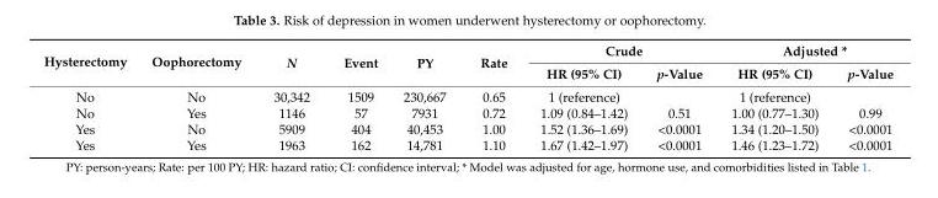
<table><thead><tr><td rowspan="2">Hysterectomy</td><td rowspan="2">Oophorectomy</td><td rowspan="2">N</td><td rowspan="2">Event</td><td rowspan="2">PY</td><td rowspan="2">Rate</td><td colspan="2">Crude</td><td colspan="2">Adjusted *</td></tr><tr><td>HR (95% CI)</td><td>p-Value</td><td>HR (95% CI)</td><td>p-Value</td></tr></thead><tbody><tr><td>No</td><td>No</td><td>30,342</td><td>1509</td><td>230,667</td><td>0.65</td><td>1 (reference)</td><td></td><td>1 (reference)</td><td></td></tr><tr><td>No</td><td>Yes</td><td>1146</td><td>57</td><td>7931</td><td>0.72</td><td>1.09 (0.84–1.42)</td><td>0.51</td><td>1.00 (0.77–1.30)</td><td>0.99</td></tr><tr><td>Yes</td><td>No</td><td>5909</td><td>404</td><td>40,453</td><td>1.00</td><td>1.52 (1.36–1.69)</td><td>&lt;0.0001</td><td>1.34 (1.20–1.50)</td><td>&lt;0.0001</td></tr><tr><td>Yes</td><td>Yes</td><td>1963</td><td>162</td><td>14,781</td><td>1.10</td><td>1.67 (1.42–1.97)</td><td>&lt;0.0001</td><td>1.46 (1.23–1.72)</td><td>&lt;0.0001</td></tr></tbody></table>